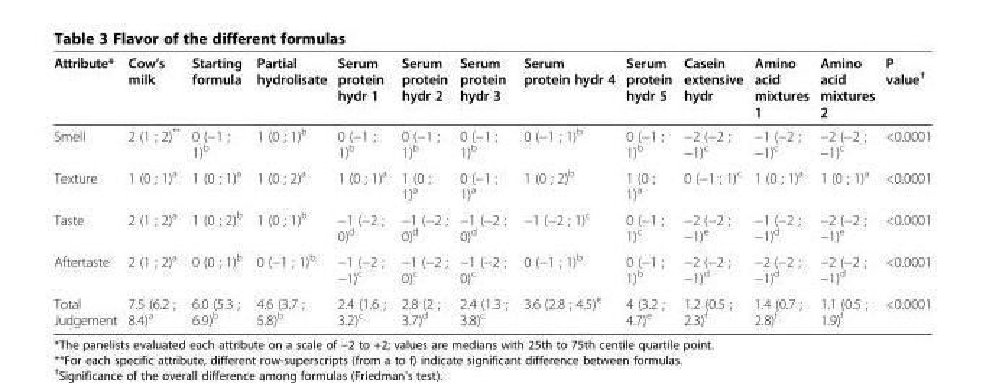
<table><thead><tr><td>Attribute*</td><td>Cow’s milk</td><td>Starting formula</td><td>Partial hydrolisate</td><td>Serum protein hydr 1</td><td>Serum protein hydr 2</td><td>Serum protein hydr 3</td><td>Serum protein hydr 4</td><td>Serum protein hydr 5</td><td>Casein extensive hydr</td><td>Amino acid mixtures 1</td><td>Amino acid mixtures 2</td><td>P value<sup>†</sup></td></tr></thead><tbody><tr><td>Smell</td><td>2 (1 ; 2)**</td><td>0 (−1 ; 1)<sup>b</sup></td><td>1 (0 ; 1)<sup>b</sup></td><td>0 (−1 ; 1)<sup>b</sup></td><td>0 (−1 ; 1)<sup>b</sup></td><td>0 (−1 ; 1)<sup>b</sup></td><td>0 (−1 ; 1)<sup>b</sup></td><td>0 (−1 ; 1)<sup>b</sup></td><td>−2 (−2 ; −1)<sup>c</sup></td><td>−1 (−2 ; −1)<sup>c</sup></td><td>−2 (−2 ; −1)<sup>c</sup></td><td>&lt;0.0001</td></tr><tr><td>Texture</td><td>1 (0 ; 1)<sup>a</sup></td><td>1 (0 ; 1)<sup>a</sup></td><td>1 (0 ; 2)<sup>a</sup></td><td>1 (0 ; 1)<sup>a</sup></td><td>1 (0 ; 1)<sup>a</sup></td><td>0 (−1 ; 1)<sup>a</sup></td><td>1 (0 ; 2)<sup>b</sup></td><td>1 (0 ; 1)<sup>a</sup></td><td>0 (−1 ; 1)<sup>c</sup></td><td>1 (0 ; 1)<sup>a</sup></td><td>1 (0 ; 1)<sup>a</sup></td><td>&lt;0.0001</td></tr><tr><td>Taste</td><td>2 (1 ; 2)<sup>a</sup></td><td>1 (0 ; 2)<sup>b</sup></td><td>1 (0 ; 1)<sup>b</sup></td><td>−1 (−2 ; 0)<sup>d</sup></td><td>−1 (−2 ; 0)<sup>d</sup></td><td>−1 (−2 ; 0)<sup>d</sup></td><td>−1 (−2 ; 1)<sup>c</sup></td><td>0 (−1 ; 1)<sup>c</sup></td><td>−2 (−2 ; −1)<sup>e</sup></td><td>−1 (−2 ; −1)<sup>d</sup></td><td>−2 (−2 ; −1)<sup>e</sup></td><td>&lt;0.0001</td></tr><tr><td>Aftertaste</td><td>2 (1 ; 2)<sup>a</sup></td><td>0 (0 ; 1)<sup>b</sup></td><td>0 (−1 ; 1)<sup>b</sup></td><td>−1 (−2 ; −1)<sup>c</sup></td><td>−1 (−2 ; 0)<sup>c</sup></td><td>−1 (−2 ; 0)<sup>c</sup></td><td>0 (−1 ; 1)<sup>b</sup></td><td>0 (−1 ; 1)<sup>b</sup></td><td>−2 (−2 ; −1)<sup>d</sup></td><td>−2 (−2 ; −1)<sup>d</sup></td><td>−2 (−2 ; −1)<sup>d</sup></td><td>&lt;0.0001</td></tr><tr><td>Total Judgement</td><td>7.5 (6.2 ; 8.4)<sup>a</sup></td><td>6.0 (5.3 ; 6.9)<sup>b</sup></td><td>4.6 (3.7 ; 5.8)<sup>b</sup></td><td>2.4 (1.6 ; 3.2)<sup>c</sup></td><td>2.8 (2 ; 3.7)<sup>d</sup></td><td>2.4 (1.3 ; 3.8)<sup>c</sup></td><td>3.6 (2.8 ; 4.5)<sup>e</sup></td><td>4 (3.2 ; 4.7)<sup>e</sup></td><td>1.2 (0.5 ; 2.3)<sup>f</sup></td><td>1.4 (0.7 ; 2.8)<sup>f</sup></td><td>1.1 (0.5 ; 1.9)<sup>f</sup></td><td>&lt;0.0001</td></tr></tbody></table>